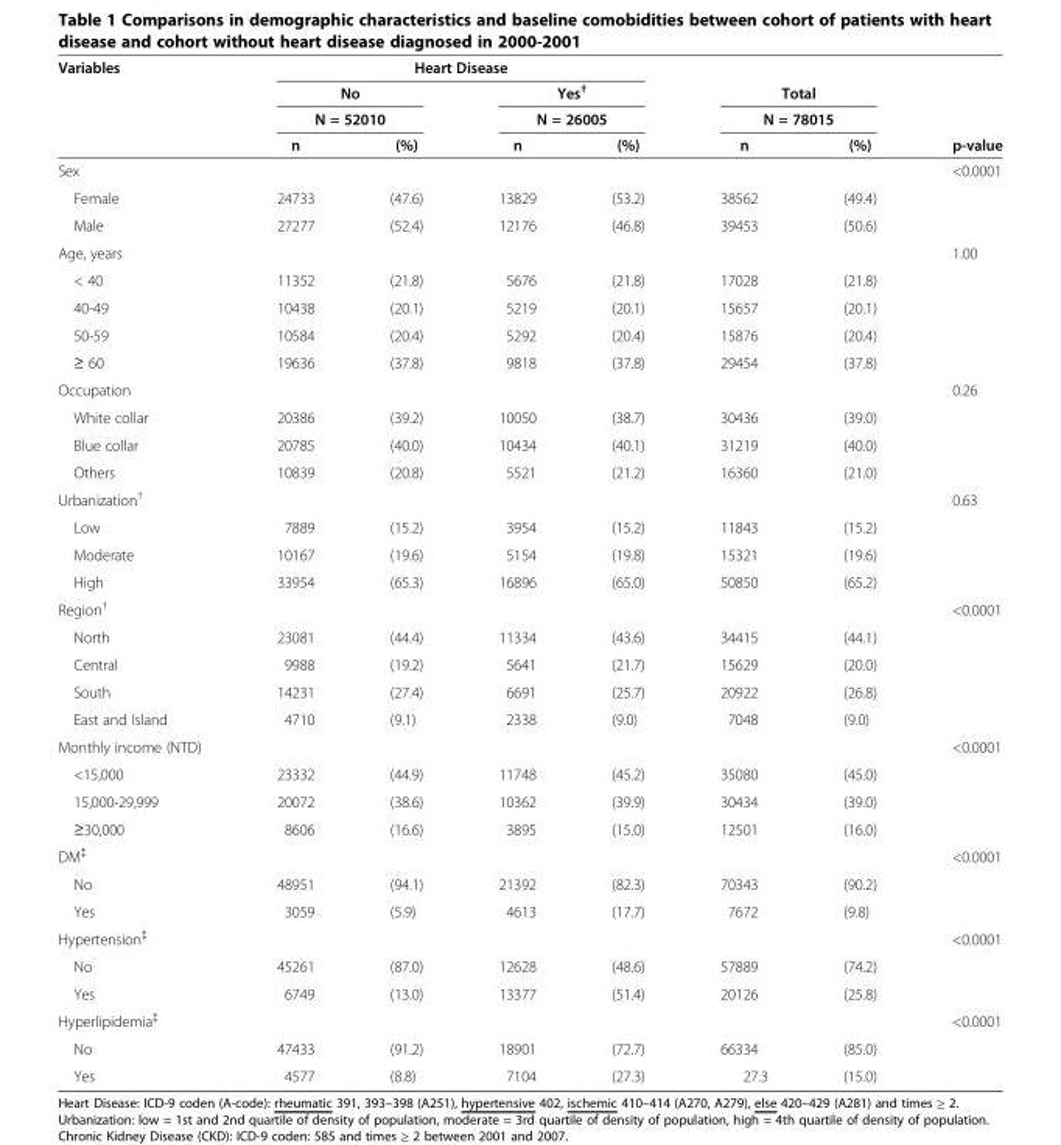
<table><thead><tr><td rowspan="4">Variables</td><td colspan="4">Heart Disease</td><td></td><td></td><td rowspan="4">p-value</td></tr><tr><td rowspan="2" colspan="2">No N = 52010</td><td rowspan="2" colspan="2">Yes<sup>†</sup> N = 26005</td><td rowspan="2" colspan="2">Total N = 78015</td></tr><tr></tr><tr><td>n</td><td>(%)</td><td>n</td><td>(%)</td><td>n</td><td>(%)</td></tr></thead><tbody><tr><td>Sex</td><td></td><td></td><td></td><td></td><td></td><td></td><td>&lt;0.0001</td></tr><tr><td>Female</td><td>24733</td><td>(47.6)</td><td>13829</td><td>(53.2)</td><td>38562</td><td>(49.4)</td><td></td></tr><tr><td>Male</td><td>27277</td><td>(52.4)</td><td>12176</td><td>(46.8)</td><td>39453</td><td>(50.6)</td><td></td></tr><tr><td>Age, years</td><td></td><td></td><td></td><td></td><td></td><td></td><td>1.00</td></tr><tr><td>&lt; 40</td><td>11352</td><td>(21.8)</td><td>5676</td><td>(21.8)</td><td>17028</td><td>(21.8)</td><td></td></tr><tr><td>40-49</td><td>10438</td><td>(20.1)</td><td>5219</td><td>(20.1)</td><td>15657</td><td>(20.1)</td><td></td></tr><tr><td>50-59</td><td>10584</td><td>(20.4)</td><td>5292</td><td>(20.4)</td><td>15876</td><td>(20.4)</td><td></td></tr><tr><td>≥ 60</td><td>19636</td><td>(37.8)</td><td>9818</td><td>(37.8)</td><td>29454</td><td>(37.8)</td><td></td></tr><tr><td>Occupation</td><td></td><td></td><td></td><td></td><td></td><td></td><td>0.26</td></tr><tr><td>White collar</td><td>20386</td><td>(39.2)</td><td>10050</td><td>(38.7)</td><td>30436</td><td>(39.0)</td><td></td></tr><tr><td>Blue collar</td><td>20785</td><td>(40.0)</td><td>10434</td><td>(40.1)</td><td>31219</td><td>(40.0)</td><td></td></tr><tr><td>Others</td><td>10839</td><td>(20.8)</td><td>5521</td><td>(21.2)</td><td>16360</td><td>(21.0)</td><td></td></tr><tr><td>Urbanization<sup>†</sup></td><td></td><td></td><td></td><td></td><td></td><td></td><td>0.63</td></tr><tr><td>Low</td><td>7889</td><td>(15.2)</td><td>3954</td><td>(15.2)</td><td>11843</td><td>(15.2)</td><td></td></tr><tr><td>Moderate</td><td>10167</td><td>(19.6)</td><td>5154</td><td>(19.8)</td><td>15321</td><td>(19.6)</td><td></td></tr><tr><td>High</td><td>33954</td><td>(65.3)</td><td>16896</td><td>(65.0)</td><td>50850</td><td>(65.2)</td><td></td></tr><tr><td>Region<sup>†</sup></td><td></td><td></td><td></td><td></td><td></td><td></td><td>&lt;0.0001</td></tr><tr><td>North</td><td>23081</td><td>(44.4)</td><td>11334</td><td>(43.6)</td><td>34415</td><td>(44.1)</td><td></td></tr><tr><td>Central</td><td>9988</td><td>(19.2)</td><td>5641</td><td>(21.7)</td><td>15629</td><td>(20.0)</td><td></td></tr><tr><td>South</td><td>14231</td><td>(27.4)</td><td>6691</td><td>(25.7)</td><td>20922</td><td>(26.8)</td><td></td></tr><tr><td>East and Island</td><td>4710</td><td>(9.1)</td><td>2338</td><td>(9.0)</td><td>7048</td><td>(9.0)</td><td></td></tr><tr><td>Monthly income (NTD)</td><td></td><td></td><td></td><td></td><td></td><td></td><td>&lt;0.0001</td></tr><tr><td>&lt;15,000</td><td>23332</td><td>(44.9)</td><td>11748</td><td>(45.2)</td><td>35080</td><td>(45.0)</td><td></td></tr><tr><td>15,000-29,999</td><td>20072</td><td>(38.6)</td><td>10362</td><td>(39.9)</td><td>30434</td><td>(39.0)</td><td></td></tr><tr><td>≥30,000</td><td>8606</td><td>(16.6)</td><td>3895</td><td>(15.0)</td><td>12501</td><td>(16.0)</td><td></td></tr><tr><td>DM<sup>‡</sup></td><td></td><td></td><td></td><td></td><td></td><td></td><td>&lt;0.0001</td></tr><tr><td>No</td><td>48951</td><td>(94.1)</td><td>21392</td><td>(82.3)</td><td>70343</td><td>(90.2)</td><td></td></tr><tr><td>Yes</td><td>3059</td><td>(5.9)</td><td>4613</td><td>(17.7)</td><td>7672</td><td>(9.8)</td><td></td></tr><tr><td>Hypertension<sup>‡</sup></td><td></td><td></td><td></td><td></td><td></td><td></td><td>&lt;0.0001</td></tr><tr><td>No</td><td>45261</td><td>(87.0)</td><td>12628</td><td>(48.6)</td><td>57889</td><td>(74.2)</td><td></td></tr><tr><td>Yes</td><td>6749</td><td>(13.0)</td><td>13377</td><td>(51.4)</td><td>20126</td><td>(25.8)</td><td></td></tr><tr><td>Hyperlipidemia<sup>‡</sup></td><td></td><td></td><td></td><td></td><td></td><td></td><td>&lt;0.0001</td></tr><tr><td>No</td><td>47433</td><td>(91.2)</td><td>18901</td><td>(72.7)</td><td>66334</td><td>(85.0)</td><td></td></tr><tr><td>Yes</td><td>4577</td><td>(8.8)</td><td>7104</td><td>(27.3)</td><td>27.3</td><td>(15.0)</td><td></td></tr></tbody></table>